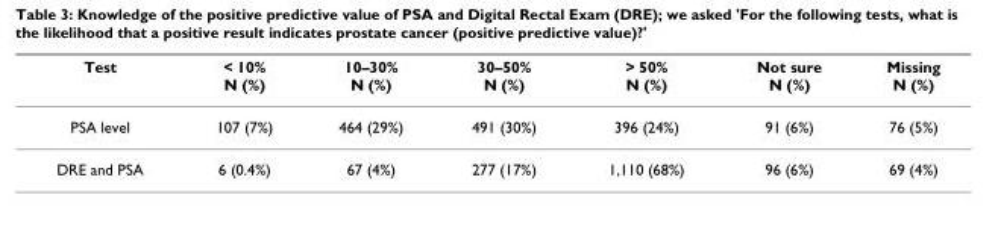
<table><thead><tr><td>Test</td><td>&lt; 10% N (%)</td><td>10–30% N (%)</td><td>30–50% N (%)</td><td>&gt; 50% N (%)</td><td>Not sure N (%)</td><td>Missing N (%)</td></tr></thead><tbody><tr><td>PSA level</td><td>107 (7%)</td><td>464 (29%)</td><td>491 (30%)</td><td>396 (24%)</td><td>91 (6%)</td><td>76 (5%)</td></tr><tr><td>DRE and PSA</td><td>6 (0.4%)</td><td>67 (4%)</td><td>277 (17%)</td><td>1,110 (68%)</td><td>96 (6%)</td><td>69 (4%)</td></tr></tbody></table>